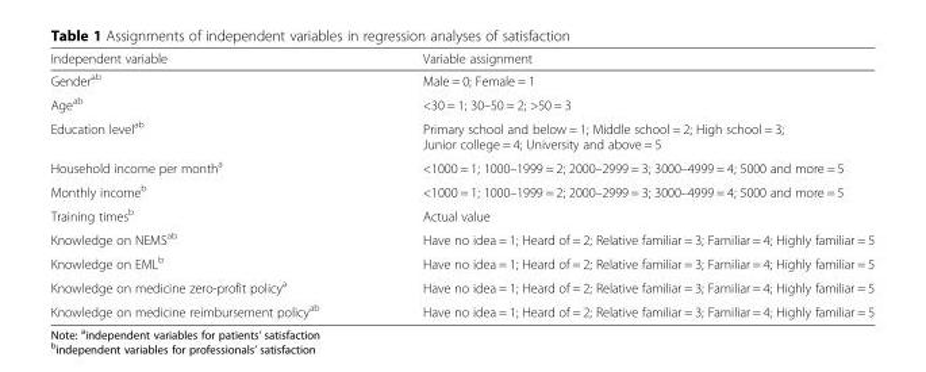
<table><thead><tr><td>Independent variable</td><td>Variable assignment</td></tr></thead><tbody><tr><td>Gender<sup>ab</sup></td><td>Male = 0; Female = 1</td></tr><tr><td>Age<sup>ab</sup></td><td>&lt;30 = 1; 30–50 = 2; &gt;50 = 3</td></tr><tr><td>Education level<sup>ab</sup></td><td>Primary school and below = 1; Middle school = 2; High school = 3; Junior college = 4; University and above = 5</td></tr><tr><td>Household income per month<sup>a</sup></td><td>&lt;1000 = 1; 1000–1999 = 2; 2000–2999 = 3; 3000–4999 = 4; 5000 and more = 5</td></tr><tr><td>Monthly income<sup>b</sup></td><td>&lt;1000 = 1; 1000–1999 = 2; 2000–2999 = 3; 3000–4999 = 4; 5000 and more = 5</td></tr><tr><td>Training times<sup>b</sup></td><td>Actual value</td></tr><tr><td>Knowledge on NEMS<sup>ab</sup></td><td>Have no idea = 1; Heard of = 2; Relative familiar = 3; Familiar = 4; Highly familiar = 5</td></tr><tr><td>Knowledge on EML<sup>b</sup></td><td>Have no idea = 1; Heard of = 2; Relative familiar = 3; Familiar = 4; Highly familiar = 5</td></tr><tr><td>Knowledge on medicine zero-profit policy<sup>a</sup></td><td>Have no idea = 1; Heard of = 2; Relative familiar = 3; Familiar = 4; Highly familiar = 5</td></tr><tr><td>Knowledge on medicine reimbursement policy<sup>ab</sup></td><td>Have no idea = 1; Heard of = 2; Relative familiar = 3; Familiar = 4; Highly familiar = 5</td></tr></tbody></table>